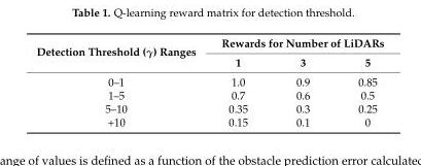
<table><thead><tr><td rowspan="2">Detection Threshold (γ) Ranges</td><td colspan="3">Rewards for Number of LiDARs</td></tr><tr><td>1</td><td>3</td><td>5</td></tr></thead><tbody><tr><td>0–1</td><td>1.0</td><td>0.9</td><td>0.85</td></tr><tr><td>1–5</td><td>0.7</td><td>0.6</td><td>0.5</td></tr><tr><td>5–10</td><td>0.35</td><td>0.3</td><td>0.25</td></tr><tr><td>+10</td><td>0.15</td><td>0.1</td><td>0</td></tr></tbody></table>